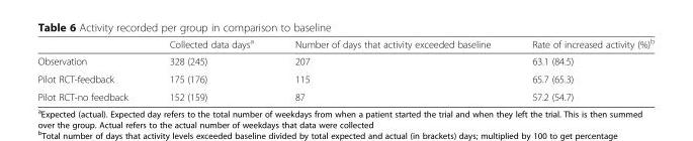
<table><thead><tr><td></td><td>Collected data days<sup>a</sup></td><td>Number of days that activity exceeded baseline</td><td>Rate of increased activity (%)<sup>b</sup></td></tr></thead><tbody><tr><td>Observation</td><td>328 (245)</td><td>207</td><td>63.1 (84.5)</td></tr><tr><td>Pilot RCT-feedback</td><td>175 (176)</td><td>115</td><td>65.7 (65.3)</td></tr><tr><td>Pilot RCT-no feedback</td><td>152 (159)</td><td>87</td><td>57.2 (54.7)</td></tr></tbody></table>